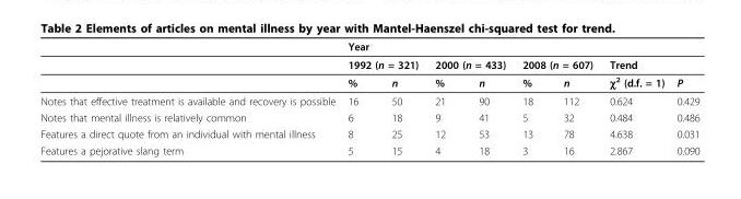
<table><thead><tr><td rowspan="3"></td><td colspan="6">Year</td><td></td><td></td></tr><tr><td colspan="2">1992 (n = 321)</td><td colspan="2">2000 (n = 433)</td><td colspan="2">2008 (n = 607)</td><td colspan="2">Trend</td></tr><tr><td>%</td><td>n</td><td>%</td><td>n</td><td>%</td><td>n</td><td>χ<sup>2</sup> (d.f. = 1)</td><td>P</td></tr></thead><tbody><tr><td>Notes that effective treatment is available and recovery is possible</td><td>16</td><td>50</td><td>21</td><td>90</td><td>18</td><td>112</td><td>0.624</td><td>0.429</td></tr><tr><td>Notes that mental illness is relatively common</td><td>6</td><td>18</td><td>9</td><td>41</td><td>5</td><td>32</td><td>0.484</td><td>0.486</td></tr><tr><td>Features a direct quote from an individual with mental illness</td><td>8</td><td>25</td><td>12</td><td>53</td><td>13</td><td>78</td><td>4.638</td><td>0.031</td></tr><tr><td>Features a pejorative slang term</td><td>5</td><td>15</td><td>4</td><td>18</td><td>3</td><td>16</td><td>2.867</td><td>0.090</td></tr></tbody></table>